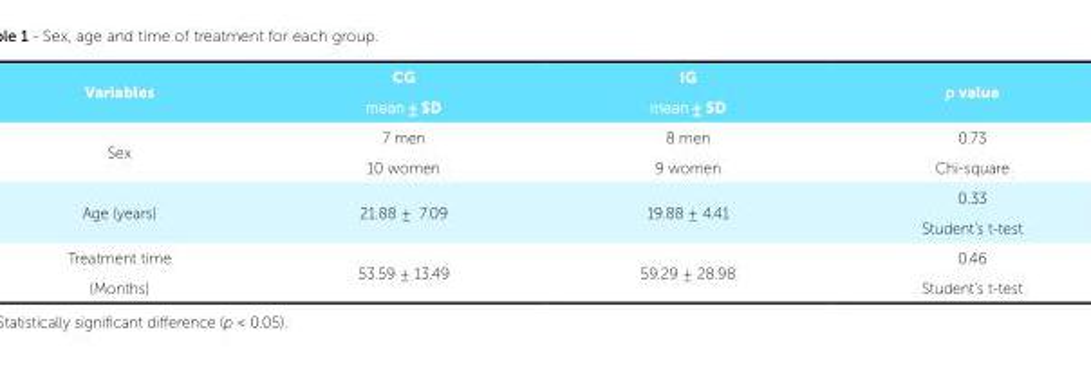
<table><thead><tr><td rowspan="2">Variables</td><td rowspan="2">CG mean ± SD</td><td rowspan="2">IG mean ± SD</td><td rowspan="2">p value</td></tr><tr></tr></thead><tbody><tr><td rowspan="2">Sex</td><td>7 men</td><td>8 men</td><td>0.73</td></tr><tr><td>10 women</td><td>9 women</td><td>Chi-square</td></tr><tr><td rowspan="2">Age (years)</td><td rowspan="2">21.88 ± 7.09</td><td rowspan="2">19.88 ± 4.41</td><td>0.33</td></tr><tr><td>Student’s t-test</td></tr><tr><td rowspan="2">Treatment time (Months)</td><td rowspan="2">53.59 ± 13.49</td><td rowspan="2">59.29 ± 28.98</td><td>0.46</td></tr><tr><td>Student’s t-test</td></tr></tbody></table>